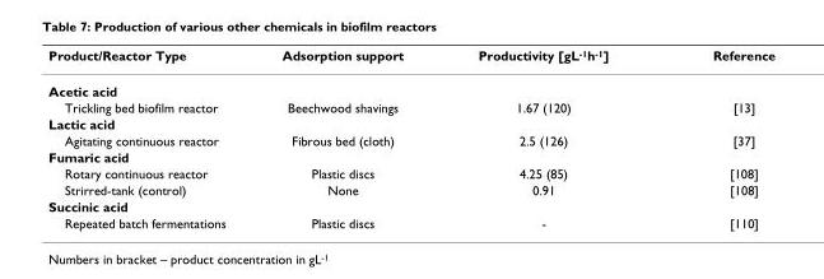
<table><thead><tr><td>Product/Reactor Type</td><td>Adsorption support</td><td>Productivity [gL<sup>-1</sup>h<sup>-1</sup>]</td><td>Reference</td></tr></thead><tbody><tr><td colspan="4">Acetic acid</td></tr><tr><td>Trickling bed biofilm reactor</td><td>Beechwood shavings</td><td>1.67 (120)</td><td>[13]</td></tr><tr><td colspan="4">Lactic acid</td></tr><tr><td>Agitating continuous reactor</td><td>Fibrous bed (cloth)</td><td>2.5 (126)</td><td>[37]</td></tr><tr><td colspan="4">Fumaric acid</td></tr><tr><td>Rotary continuous reactor</td><td>Plastic discs</td><td>4.25 (85)</td><td>[108]</td></tr><tr><td>Strirred-tank (control)</td><td>None</td><td>0.91</td><td>[108]</td></tr><tr><td colspan="4">Succinic acid</td></tr><tr><td>Repeated batch fermentations</td><td>Plastic discs</td><td>-</td><td>[110]</td></tr></tbody></table>